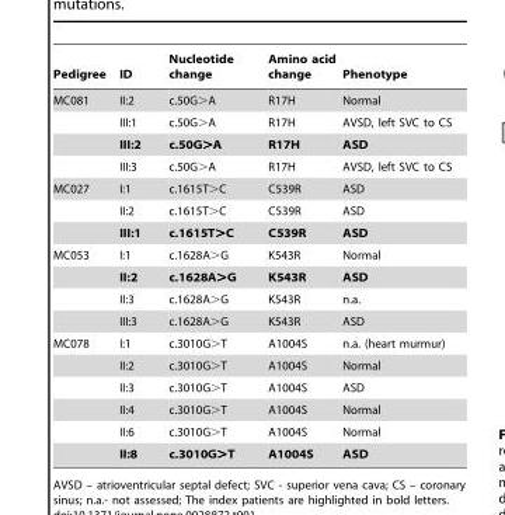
<table><thead><tr><td>Pedigree</td><td>ID</td><td>Nucleotide change</td><td>Amino acid change</td><td>Phenotype</td></tr></thead><tbody><tr><td rowspan="4">MC081</td><td>II:2</td><td>c.50G&gt;A</td><td>R17H</td><td>Normal</td></tr><tr><td>III:1</td><td>c.50G&gt;A</td><td>R17H</td><td>AVSD, left SVC to CS</td></tr><tr><td>III:2</td><td>c.50G&gt;A</td><td>R17H</td><td>ASD</td></tr><tr><td>III:3</td><td>c.50G&gt;A</td><td>R17H</td><td>AVSD, left SVC to CS</td></tr><tr><td rowspan="3">MC027</td><td>I:1</td><td>c.1615T&gt;C</td><td>C539R</td><td>ASD</td></tr><tr><td>II:2</td><td>c.1615T&gt;C</td><td>C539R</td><td>ASD</td></tr><tr><td>III:1</td><td>c.1615T&gt;C</td><td>C539R</td><td>ASD</td></tr><tr><td rowspan="4">MC053</td><td>I:1</td><td>c.1628A&gt;G</td><td>K543R</td><td>Normal</td></tr><tr><td>II:2</td><td>c.1628A&gt;G</td><td>K543R</td><td>ASD</td></tr><tr><td>II:3</td><td>c.1628A&gt;G</td><td>K543R</td><td>n.a.</td></tr><tr><td>III:3</td><td>c.1628A&gt;G</td><td>K543R</td><td>ASD</td></tr><tr><td rowspan="6">MC078</td><td>I:1</td><td>c.3010G&gt;T</td><td>A1004S</td><td>n.a. (heart murmur)</td></tr><tr><td>II:2</td><td>c.3010G&gt;T</td><td>A1004S</td><td>Normal</td></tr><tr><td>II:3</td><td>c.3010G&gt;T</td><td>A1004S</td><td>ASD</td></tr><tr><td>II:4</td><td>c.3010G&gt;T</td><td>A1004S</td><td>Normal</td></tr><tr><td>II:6</td><td>c.3010G&gt;T</td><td>A1004S</td><td>Normal</td></tr><tr><td>II:8</td><td>c.3010G&gt;T</td><td>A1004S</td><td>ASD</td></tr></tbody></table>